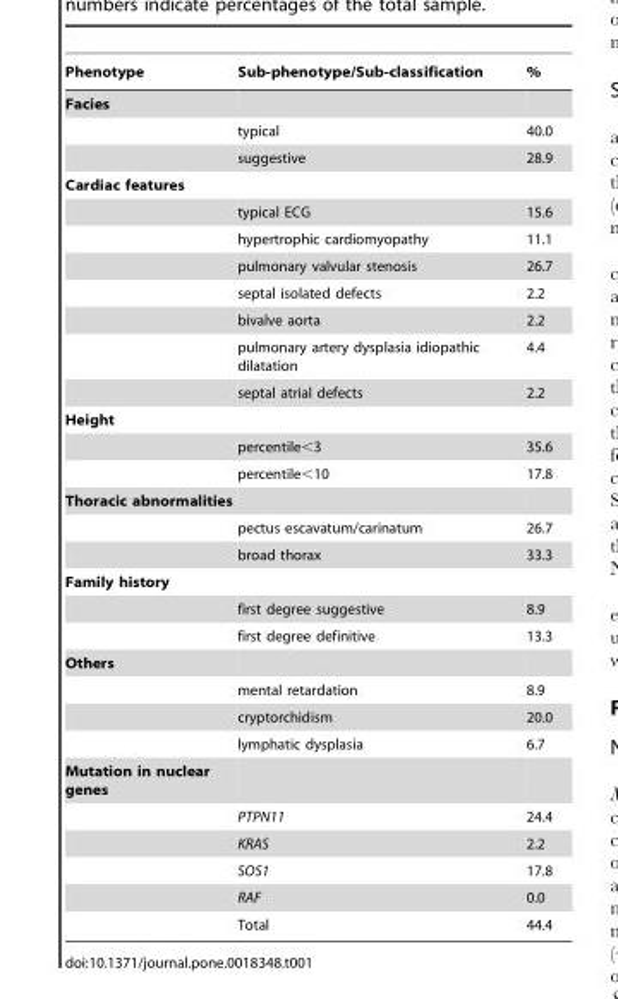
<table><thead><tr><td>Phenotype</td><td>Sub-phenotype/Sub-classification</td><td>%</td></tr></thead><tbody><tr><td colspan="3">Facies</td></tr><tr><td></td><td>typical</td><td>40.0</td></tr><tr><td></td><td>suggestive</td><td>28.9</td></tr><tr><td colspan="3">Cardiac features</td></tr><tr><td></td><td>typical ECG</td><td>15.6</td></tr><tr><td></td><td>hypertrophic cardiomyopathy</td><td>11.1</td></tr><tr><td></td><td>pulmonary valvular stenosis</td><td>26.7</td></tr><tr><td></td><td>septal isolated defects</td><td>2.2</td></tr><tr><td></td><td>bivalve aorta</td><td>2.2</td></tr><tr><td></td><td>pulmonary artery dysplasia idiopathic dilatation</td><td>4.4</td></tr><tr><td></td><td>septal atrial defects</td><td>2.2</td></tr><tr><td colspan="3">Height</td></tr><tr><td></td><td>percentile&lt;3</td><td>35.6</td></tr><tr><td></td><td>percentile&lt;10</td><td>17.8</td></tr><tr><td colspan="3">Thoracic abnormalities</td></tr><tr><td></td><td>pectus escavatum/carinatum</td><td>26.7</td></tr><tr><td></td><td>broad thorax</td><td>33.3</td></tr><tr><td colspan="3">Family history</td></tr><tr><td></td><td>first degree suggestive</td><td>8.9</td></tr><tr><td></td><td>first degree definitive</td><td>13.3</td></tr><tr><td colspan="3">Others</td></tr><tr><td></td><td>mental retardation</td><td>8.9</td></tr><tr><td></td><td>cryptorchidism</td><td>20.0</td></tr><tr><td></td><td>lymphatic dysplasia</td><td>6.7</td></tr><tr><td colspan="3">Mutation in nuclear genes</td></tr><tr><td></td><td>PTPN11</td><td>24.4</td></tr><tr><td></td><td>KRAS</td><td>2.2</td></tr><tr><td></td><td>SOS1</td><td>17.8</td></tr><tr><td></td><td>RAF</td><td>0.0</td></tr><tr><td></td><td>Total</td><td>44.4</td></tr></tbody></table>